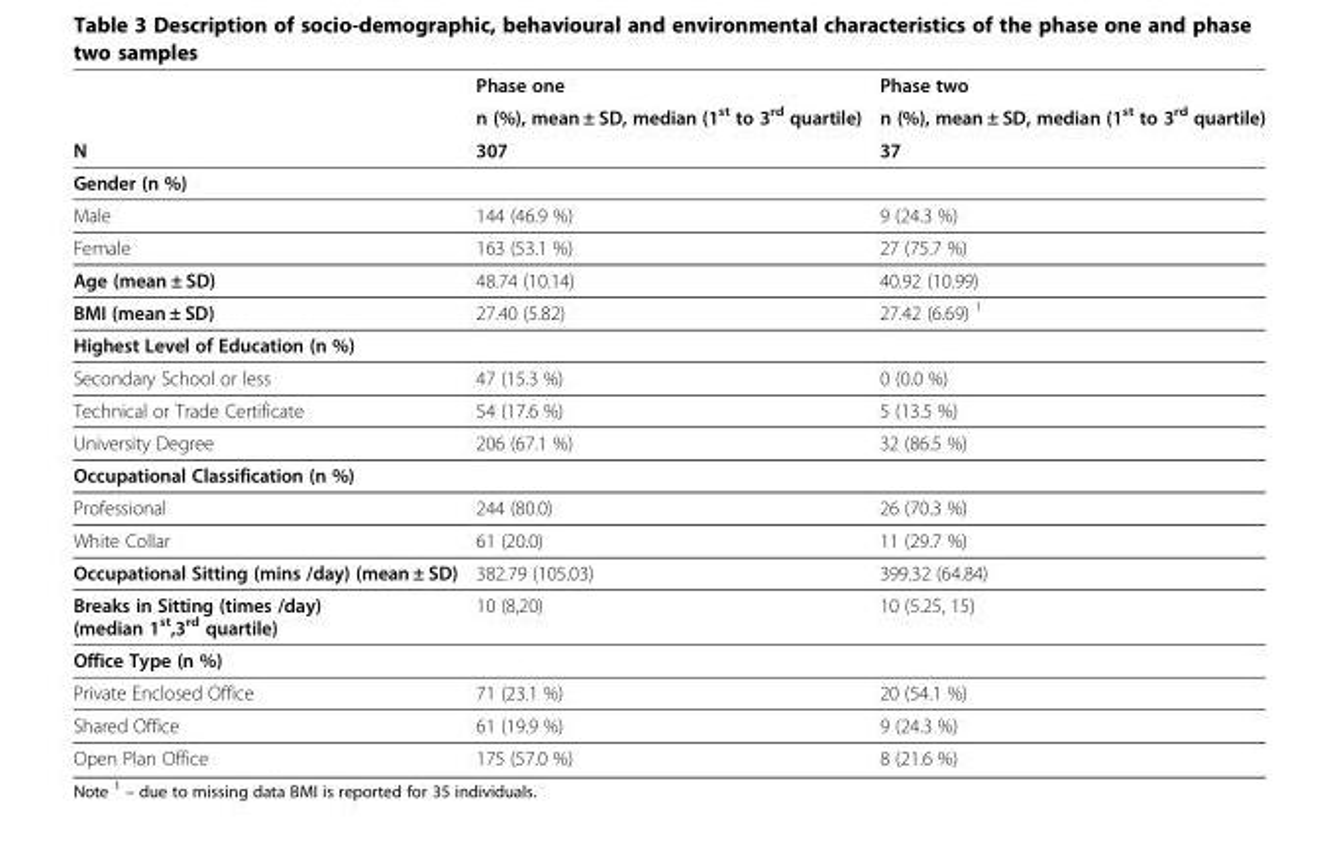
<table><thead><tr><td rowspan="3">N</td><td rowspan="3">Phase one n (%), mean ± SD, median (1<sup>st</sup> to 3<sup>rd</sup> quartile) 307</td><td rowspan="3">Phase two n (%), mean ± SD, median (1<sup>st</sup> to 3<sup>rd</sup> quartile) 37</td></tr><tr></tr><tr></tr></thead><tbody><tr><td colspan="3">Gender (n %)</td></tr><tr><td>Male</td><td>144 (46.9 %)</td><td>9 (24.3 %)</td></tr><tr><td>Female</td><td>163 (53.1 %)</td><td>27 (75.7 %)</td></tr><tr><td>Age (mean ± SD)</td><td>48.74 (10.14)</td><td>40.92 (10.99)</td></tr><tr><td>BMI (mean ± SD)</td><td>27.40 (5.82)</td><td>27.42 (6.69) <sup>1</sup></td></tr><tr><td colspan="3">Highest Level of Education (n %)</td></tr><tr><td>Secondary School or less</td><td>47 (15.3 %)</td><td>0 (0.0 %)</td></tr><tr><td>Technical or Trade Certificate</td><td>54 (17.6 %)</td><td>5 (13.5 %)</td></tr><tr><td>University Degree</td><td>206 (67.1 %)</td><td>32 (86.5 %)</td></tr><tr><td colspan="3">Occupational Classification (n %)</td></tr><tr><td>Professional</td><td>244 (80.0)</td><td>26 (70.3 %)</td></tr><tr><td>White Collar</td><td>61 (20.0)</td><td>11 (29.7 %)</td></tr><tr><td>Occupational Sitting (mins /day) (mean ± SD)</td><td>382.79 (105.03)</td><td>399.32 (64.84)</td></tr><tr><td>Breaks in Sitting (times /day) (median 1<sup>st</sup>,3<sup>rd</sup> quartile)</td><td>10 (8,20)</td><td>10 (5.25, 15)</td></tr><tr><td colspan="3">Office Type (n %)</td></tr><tr><td>Private Enclosed Office</td><td>71 (23.1 %)</td><td>20 (54.1 %)</td></tr><tr><td>Shared Office</td><td>61 (19.9 %)</td><td>9 (24.3 %)</td></tr><tr><td>Open Plan Office</td><td>175 (57.0 %)</td><td>8 (21.6 %)</td></tr></tbody></table>